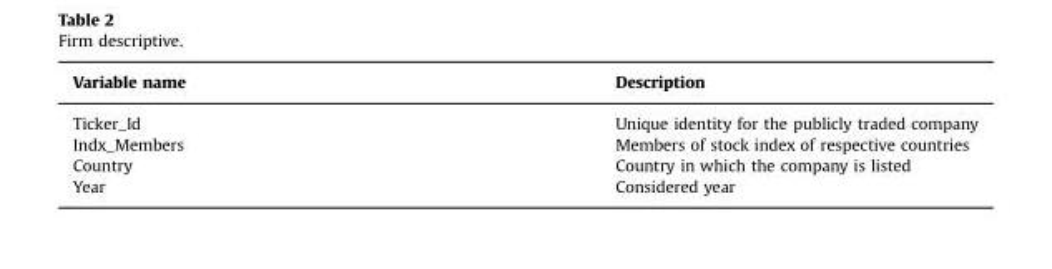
<table><thead><tr><td>Variable name</td><td>Description</td></tr></thead><tbody><tr><td>Ticker_Id</td><td>Unique identity for the publicly traded company</td></tr><tr><td>Indx_Members</td><td>Members of stock index of respective countries</td></tr><tr><td>Country</td><td>Country in which the company is listed</td></tr><tr><td>Year</td><td>Considered year</td></tr></tbody></table>